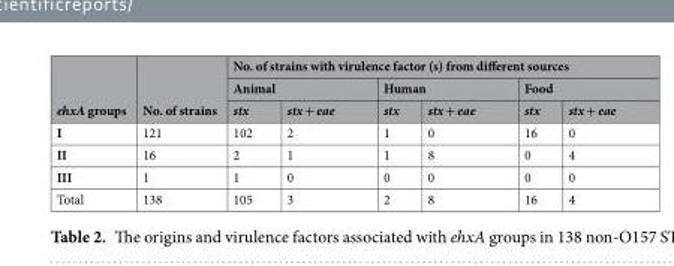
<table><thead><tr><td rowspan="3">ehxA groups</td><td rowspan="3">No. of strains</td><td colspan="6">No. of strains with virulence factor (s) from different sources</td></tr><tr><td colspan="2">Animal</td><td colspan="2">Human</td><td colspan="2">Food</td></tr><tr><td>stx</td><td>stx + eae</td><td>stx</td><td>stx + eae</td><td>stx</td><td>stx + eae</td></tr></thead><tbody><tr><td>I</td><td>121</td><td>102</td><td>2</td><td>1</td><td>0</td><td>16</td><td>0</td></tr><tr><td>II</td><td>16</td><td>2</td><td>1</td><td>1</td><td>8</td><td>0</td><td>4</td></tr><tr><td>III</td><td>1</td><td>1</td><td>0</td><td>0</td><td>0</td><td>0</td><td>0</td></tr><tr><td>Total</td><td>138</td><td>105</td><td>3</td><td>2</td><td>8</td><td>16</td><td>4</td></tr></tbody></table>